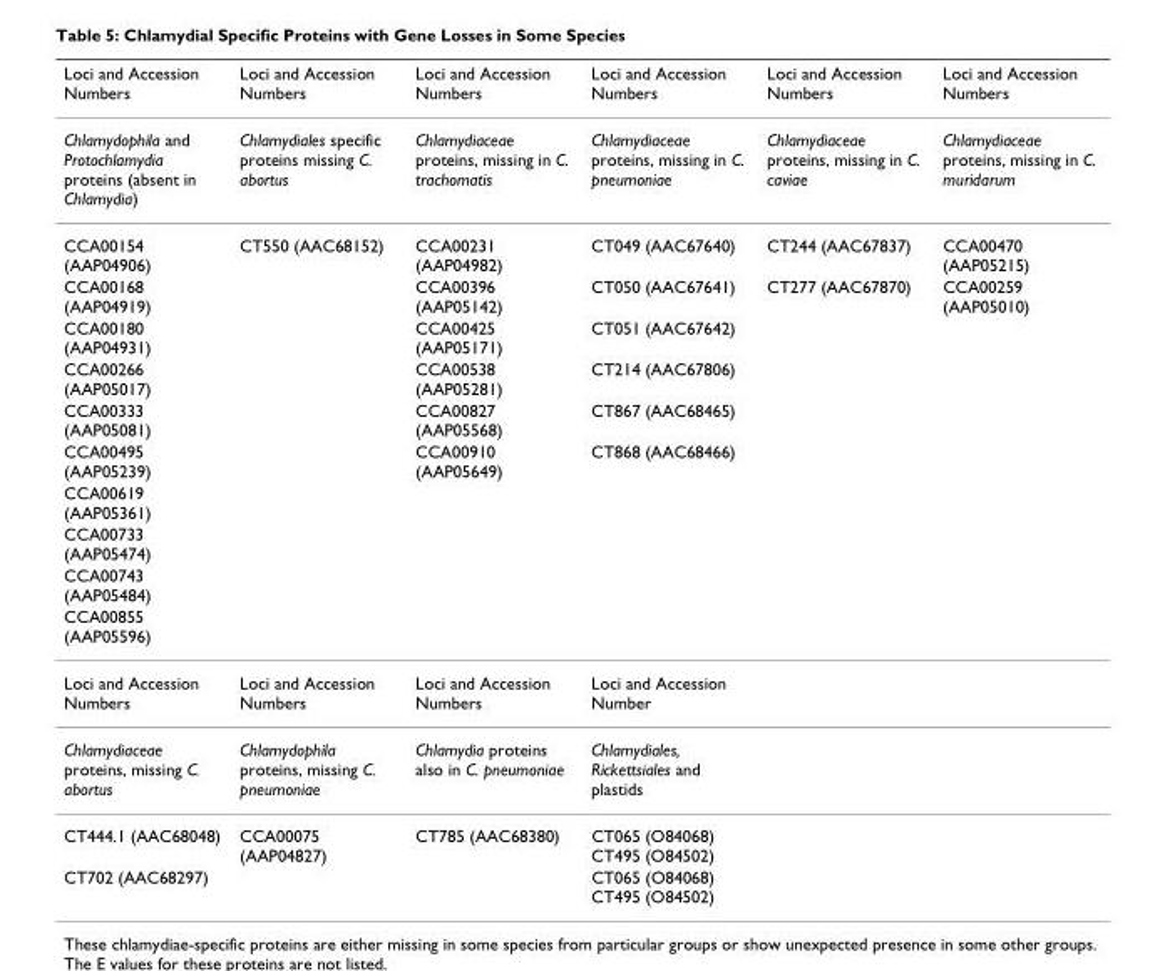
<table><thead><tr><td>Loci and Accession Numbers</td><td>Loci and Accession Numbers</td><td>Loci and Accession Numbers</td><td>Loci and Accession Numbers</td><td>Loci and Accession Numbers</td><td>Loci and Accession Numbers</td></tr></thead><tbody><tr><td>Chlamydophila and Protochlamydia proteins (absent in Chlamydia)</td><td>Chlamydiales specific proteins missing C. abortus</td><td>Chlamydiaceae proteins, missing in C. trachomatis</td><td>Chlamydiaceae proteins, missing in C. pneumoniae</td><td>Chlamydiaceae proteins, missing in C. caviae</td><td>Chlamydiaceae proteins, missing in C. muridarum</td></tr><tr><td>CCA00154 (AAP04906)</td><td>CT550 (AAC68152)</td><td>CCA00231 (AAP04982)</td><td>CT049 (AAC67640)</td><td>CT244 (AAC67837)</td><td>CCA00470 (AAP05215)</td></tr><tr><td>CCA00168 (AAP04919)</td><td></td><td>CCA00396 (AAP05142)</td><td>CT050 (AAC67641)</td><td>CT277 (AAC67870)</td><td>CCA00259 (AAP05010)</td></tr><tr><td>CCA00180 (AAP04931)</td><td></td><td>CCA00425 (AAP05171)</td><td>CT051 (AAC67642)</td><td></td><td></td></tr><tr><td>CCA00266 (AAP05017)</td><td></td><td>CCA00538 (AAP05281)</td><td>CT214 (AAC67806)</td><td></td><td></td></tr><tr><td>CCA00333 (AAP05081)</td><td></td><td>CCA00827 (AAP05568)</td><td>CT867 (AAC68465)</td><td></td><td></td></tr><tr><td>CCA00495 (AAP05239)</td><td></td><td>CCA00910 (AAP05649)</td><td>CT868 (AAC68466)</td><td></td><td></td></tr><tr><td colspan="6">CCA00619 (AAP05361)</td></tr><tr><td colspan="6">CCA00733 (AAP05474)</td></tr><tr><td colspan="6">CCA00743 (AAP05484)</td></tr><tr><td colspan="6">CCA00855 (AAP05596)</td></tr><tr><td>Loci and Accession Numbers</td><td>Loci and Accession Numbers</td><td>Loci and Accession Numbers</td><td>Loci and Accession Number</td><td></td><td></td></tr><tr><td>Chlamydiaceae proteins, missing C. abortus</td><td>Chlamydophila proteins, missing C. pneumoniae</td><td>Chlamydia proteins also in C. pneumoniae</td><td>Chlamydiales, Rickettsiales and plastids</td><td></td><td></td></tr><tr><td>CT444.1 (AAC68048)</td><td>CCA00075 (AAP04827)</td><td>CT785 (AAC68380)</td><td>CT065 (O84068) CT495 (O84502)</td><td></td><td></td></tr><tr><td>CT702 (AAC68297)</td><td></td><td></td><td>CT065 (O84068) CT495 (O84502)</td><td></td><td></td></tr></tbody></table>